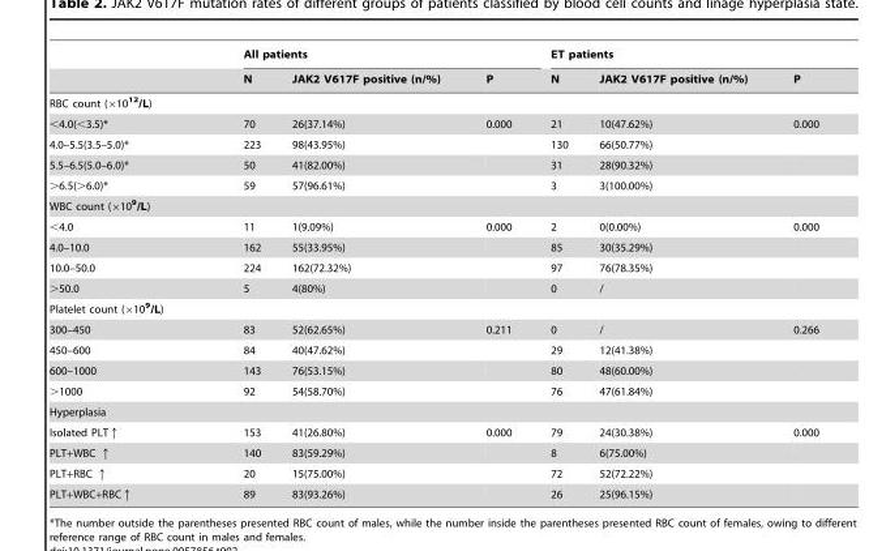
<table><thead><tr><td rowspan="2"></td><td colspan="3">All patients</td><td colspan="3">ET patients</td></tr><tr><td>N</td><td>JAK2 V617F positive (n/%)</td><td>P</td><td>N</td><td>JAK2 V617F positive (n/%)</td><td>P</td></tr></thead><tbody><tr><td colspan="7">RBC count (×10<sup>12</sup>/L)</td></tr><tr><td>&lt;4.0(&lt;3.5)*</td><td>70</td><td>26(37.14%)</td><td>0.000</td><td>21</td><td>10(47.62%)</td><td>0.000</td></tr><tr><td>4.0–5.5(3.5–5.0)*</td><td>223</td><td>98(43.95%)</td><td></td><td>130</td><td>66(50.77%)</td><td></td></tr><tr><td>5.5–6.5(5.0–6.0)*</td><td>50</td><td>41(82.00%)</td><td></td><td>31</td><td>28(90.32%)</td><td></td></tr><tr><td>&gt;6.5(&gt;6.0)*</td><td>59</td><td>57(96.61%)</td><td></td><td>3</td><td>3(100.00%)</td><td></td></tr><tr><td colspan="7">WBC count (×10<sup>9</sup>/L)</td></tr><tr><td>&lt;4.0</td><td>11</td><td>1(9.09%)</td><td>0.000</td><td>2</td><td>0(0.00%)</td><td>0.000</td></tr><tr><td>4.0–10.0</td><td>162</td><td>55(33.95%)</td><td></td><td>85</td><td>30(35.29%)</td><td></td></tr><tr><td>10.0–50.0</td><td>224</td><td>162(72.32%)</td><td></td><td>97</td><td>76(78.35%)</td><td></td></tr><tr><td>&gt;50.0</td><td>5</td><td>4(80%)</td><td></td><td>0</td><td>/</td><td></td></tr><tr><td colspan="7">Platelet count (×10<sup>9</sup>/L)</td></tr><tr><td>300–450</td><td>83</td><td>52(62.65%)</td><td>0.211</td><td>0</td><td>/</td><td>0.266</td></tr><tr><td>450–600</td><td>84</td><td>40(47.62%)</td><td></td><td>29</td><td>12(41.38%)</td><td></td></tr><tr><td>600–1000</td><td>143</td><td>76(53.15%)</td><td></td><td>80</td><td>48(60.00%)</td><td></td></tr><tr><td>&gt;1000</td><td>92</td><td>54(58.70%)</td><td></td><td>76</td><td>47(61.84%)</td><td></td></tr><tr><td colspan="7">Hyperplasia</td></tr><tr><td>Isolated PLT↑</td><td>153</td><td>41(26.80%)</td><td>0.000</td><td>79</td><td>24(30.38%)</td><td>0.000</td></tr><tr><td>PLT+WBC ↑</td><td>140</td><td>83(59.29%)</td><td></td><td>8</td><td>6(75.00%)</td><td></td></tr><tr><td>PLT+RBC ↑</td><td>20</td><td>15(75.00%)</td><td></td><td>72</td><td>52(72.22%)</td><td></td></tr><tr><td>PLT+WBC+RBC↑</td><td>89</td><td>83(93.26%)</td><td></td><td>26</td><td>25(96.15%)</td><td></td></tr></tbody></table>